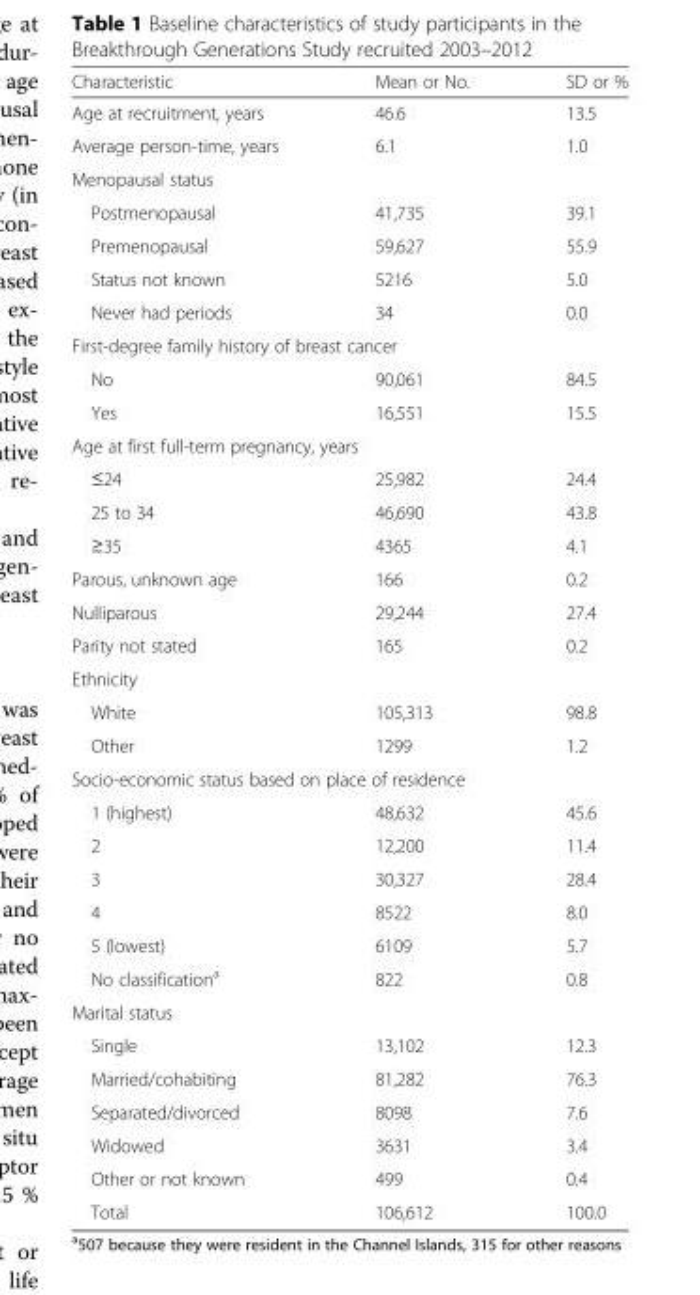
<table><thead><tr><td>Characteristic</td><td>Mean or No.</td><td>SD or %</td></tr></thead><tbody><tr><td>Age at recruitment, years</td><td>46.6</td><td>13.5</td></tr><tr><td>Average person-time, years</td><td>6.1</td><td>1.0</td></tr><tr><td colspan="3">Menopausal status</td></tr><tr><td>Postmenopausal</td><td>41,735</td><td>39.1</td></tr><tr><td>Premenopausal</td><td>59,627</td><td>55.9</td></tr><tr><td>Status not known</td><td>5216</td><td>5.0</td></tr><tr><td>Never had periods</td><td>34</td><td>0.0</td></tr><tr><td colspan="3">First-degree family history of breast cancer</td></tr><tr><td>No</td><td>90,061</td><td>84.5</td></tr><tr><td>Yes</td><td>16,551</td><td>15.5</td></tr><tr><td colspan="3">Age at first full-term pregnancy, years</td></tr><tr><td>≤24</td><td>25,982</td><td>24.4</td></tr><tr><td>25 to 34</td><td>46,690</td><td>43.8</td></tr><tr><td>≥35</td><td>4365</td><td>4.1</td></tr><tr><td>Parous, unknown age</td><td>166</td><td>0.2</td></tr><tr><td>Nulliparous</td><td>29,244</td><td>27.4</td></tr><tr><td>Parity not stated</td><td>165</td><td>0.2</td></tr><tr><td colspan="3">Ethnicity</td></tr><tr><td>White</td><td>105,313</td><td>98.8</td></tr><tr><td>Other</td><td>1299</td><td>1.2</td></tr><tr><td colspan="3">Socio-economic status based on place of residence</td></tr><tr><td>1 (highest)</td><td>48,632</td><td>45.6</td></tr><tr><td>2</td><td>12,200</td><td>11.4</td></tr><tr><td>3</td><td>30,327</td><td>28.4</td></tr><tr><td>4</td><td>8522</td><td>8.0</td></tr><tr><td>5 (lowest)</td><td>6109</td><td>5.7</td></tr><tr><td>No classification<sup>a</sup></td><td>822</td><td>0.8</td></tr><tr><td colspan="3">Marital status</td></tr><tr><td>Single</td><td>13,102</td><td>12.3</td></tr><tr><td>Married/cohabiting</td><td>81,282</td><td>76.3</td></tr><tr><td>Separated/divorced</td><td>8098</td><td>7.6</td></tr><tr><td>Widowed</td><td>3631</td><td>3.4</td></tr><tr><td>Other or not known</td><td>499</td><td>0.4</td></tr><tr><td>Total</td><td>106,612</td><td>100.0</td></tr></tbody></table>